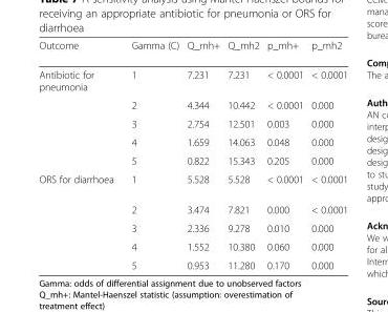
<table><thead><tr><td>Outcome</td><td>Gamma (C)</td><td>Q_mh+</td><td>Q_mh2</td><td>p_mh+</td><td>p_mh2</td></tr></thead><tbody><tr><td rowspan="5">Antibiotic for pneumonia</td><td>1</td><td>7.231</td><td>7.231</td><td>&lt; 0.0001</td><td>&lt; 0.0001</td></tr><tr><td>2</td><td>4.344</td><td>10.442</td><td>&lt; 0.0001</td><td>0.000</td></tr><tr><td>3</td><td>2.754</td><td>12.501</td><td>0.003</td><td>0.000</td></tr><tr><td>4</td><td>1.659</td><td>14.063</td><td>0.048</td><td>0.000</td></tr><tr><td>5</td><td>0.822</td><td>15.343</td><td>0.205</td><td>0.000</td></tr><tr><td rowspan="5">ORS for diarrhoea</td><td>1</td><td>5.528</td><td>5.528</td><td>&lt; 0.0001</td><td>&lt; 0.0001</td></tr><tr><td>2</td><td>3.474</td><td>7.821</td><td>0.000</td><td>&lt; 0.0001</td></tr><tr><td>3</td><td>2.336</td><td>9.278</td><td>0.010</td><td>0.000</td></tr><tr><td>4</td><td>1.552</td><td>10.380</td><td>0.060</td><td>0.000</td></tr><tr><td>5</td><td>0.953</td><td>11.280</td><td>0.170</td><td>0.000</td></tr></tbody></table>